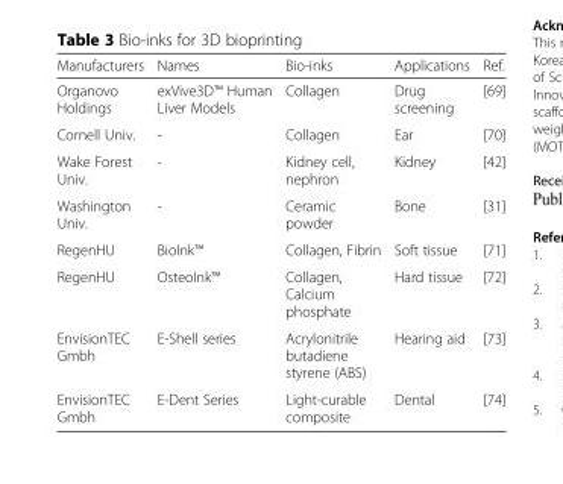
<table><thead><tr><td>Manufacturers</td><td>Names</td><td>Bio-inks</td><td>Applications</td><td>Ref.</td></tr></thead><tbody><tr><td>Organovo Holdings</td><td>exVive3D™ Human Liver Models</td><td>Collagen</td><td>Drug screening</td><td>[69]</td></tr><tr><td>Cornell Univ.</td><td>-</td><td>Collagen</td><td>Ear</td><td>[70]</td></tr><tr><td>Wake Forest Univ.</td><td>-</td><td>Kidney cell, nephron</td><td>Kidney</td><td>[42]</td></tr><tr><td>Washington Univ.</td><td>-</td><td>Ceramic powder</td><td>Bone</td><td>[31]</td></tr><tr><td>RegenHU</td><td>BioInk™</td><td>Collagen, Fibrin</td><td>Soft tissue</td><td>[71]</td></tr><tr><td>RegenHU</td><td>OsteoInk™</td><td>Collagen, Calcium phosphate</td><td>Hard tissue</td><td>[72]</td></tr><tr><td>EnvisionTEC Gmbh</td><td>E-Shell series</td><td>Acrylonitrile butadiene styrene (ABS)</td><td>Hearing aid</td><td>[73]</td></tr><tr><td>EnvisionTEC Gmbh</td><td>E-Dent Series</td><td>Light-curable composite</td><td>Dental</td><td>[74]</td></tr></tbody></table>